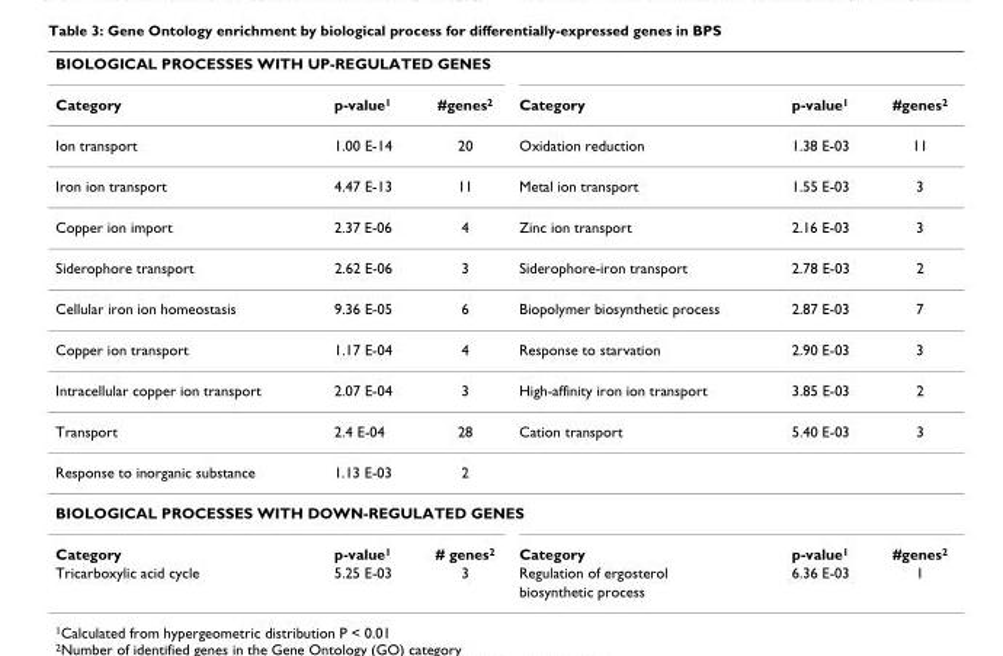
<table><thead><tr><td colspan="6">BIOLOGICAL PROCESSES WITH UP-REGULATED GENES</td></tr><tr><td>Category</td><td>p-value<sup>1</sup></td><td>#genes<sup>2</sup></td><td>Category</td><td>p-value<sup>1</sup></td><td>#genes<sup>2</sup></td></tr></thead><tbody><tr><td>Ion transport</td><td>1.00 E-14</td><td>20</td><td>Oxidation reduction</td><td>1.38 E-03</td><td>11</td></tr><tr><td>Iron ion transport</td><td>4.47 E-13</td><td>11</td><td>Metal ion transport</td><td>1.55 E-03</td><td>3</td></tr><tr><td>Copper ion import</td><td>2.37 E-06</td><td>4</td><td>Zinc ion transport</td><td>2.16 E-03</td><td>3</td></tr><tr><td>Siderophore transport</td><td>2.62 E-06</td><td>3</td><td>Siderophore-iron transport</td><td>2.78 E-03</td><td>2</td></tr><tr><td>Cellular iron ion homeostasis</td><td>9.36 E-05</td><td>6</td><td>Biopolymer biosynthetic process</td><td>2.87 E-03</td><td>7</td></tr><tr><td>Copper ion transport</td><td>1.17 E-04</td><td>4</td><td>Response to starvation</td><td>2.90 E-03</td><td>3</td></tr><tr><td>Intracellular copper ion transport</td><td>2.07 E-04</td><td>3</td><td>High-affinity iron ion transport</td><td>3.85 E-03</td><td>2</td></tr><tr><td>Transport</td><td>2.4 E-04</td><td>28</td><td>Cation transport</td><td>5.40 E-03</td><td>3</td></tr><tr><td>Response to inorganic substance</td><td>1.13 E-03</td><td>2</td><td></td><td></td><td></td></tr><tr><td colspan="6">BIOLOGICAL PROCESSES WITH DOWN-REGULATED GENES</td></tr><tr><td>Category</td><td>p-value<sup>1</sup></td><td># genes<sup>2</sup></td><td>Category</td><td>p-value<sup>1</sup></td><td>#genes<sup>2</sup></td></tr><tr><td rowspan="2">Tricarboxylic acid cycle</td><td>5.25 E-03</td><td>3</td><td>Regulation of ergosterol</td><td>6.36 E-03</td><td>1</td></tr><tr><td></td><td></td><td>biosynthetic process</td><td></td><td></td></tr></tbody></table>